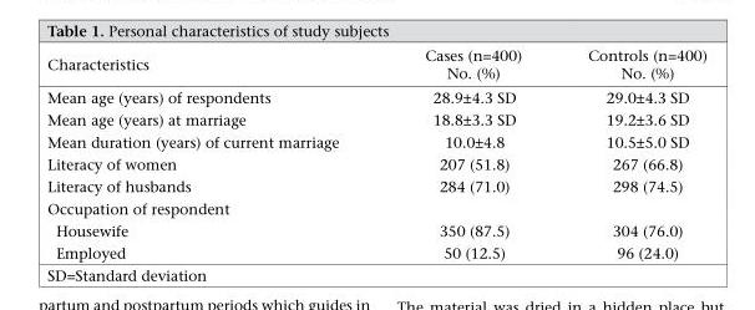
<table><thead><tr><td>Characteristics</td><td>Cases (n=400) No. (%)</td><td>Controls (n=400) No. (%)</td></tr></thead><tbody><tr><td>Mean age (years) of respondents</td><td>28.9±4.3 SD</td><td>29.0±4.3 SD</td></tr><tr><td>Mean age (years) at marriage</td><td>18.8±3.3 SD</td><td>19.2±3.6 SD</td></tr><tr><td>Mean duration (years) of current marriage</td><td>10.0±4.8</td><td>10.5±5.0 SD</td></tr><tr><td>Literacy of women</td><td>207 (51.8)</td><td>267 (66.8)</td></tr><tr><td>Literacy of husbands</td><td>284 (71.0)</td><td>298 (74.5)</td></tr><tr><td colspan="3">Occupation of respondent</td></tr><tr><td>Housewife</td><td>350 (87.5)</td><td>304 (76.0)</td></tr><tr><td>Employed</td><td>50 (12.5)</td><td>96 (24.0)</td></tr></tbody></table>